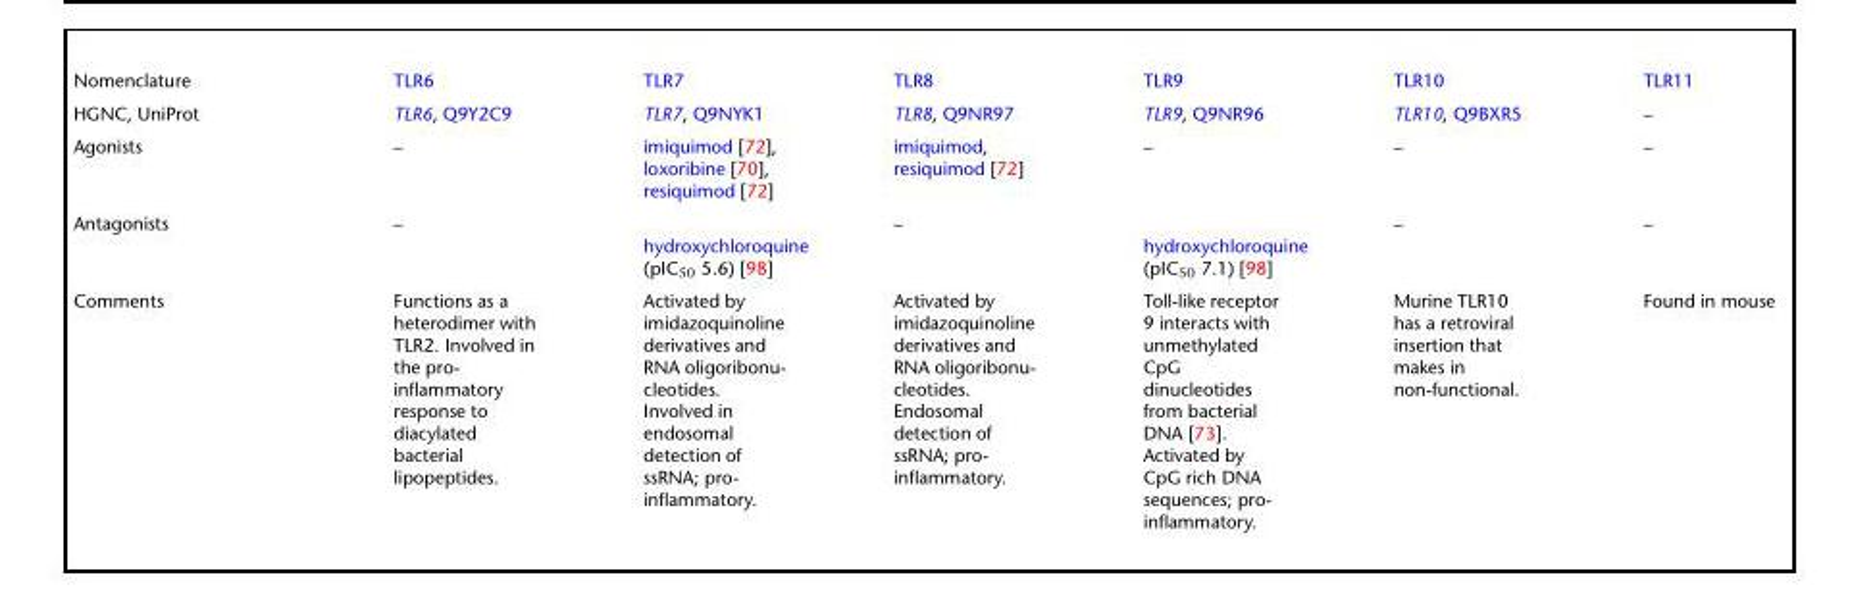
<table><tbody><tr><td>Nomenclature</td><td>TLR6</td><td>TLR7</td><td>TLR8</td><td>TLR9</td><td>TLR10</td><td>TLR11</td></tr><tr><td>HGNC, UniProt</td><td>TLR6, Q9Y2C9</td><td>TLR7, Q9NYK1</td><td>TLR8, Q9NR97</td><td>TLR9, Q9NR96</td><td>TLR10, Q9BXR5</td><td>–</td></tr><tr><td>Agonists</td><td>–</td><td>imiquimod [72], loxoribine [70], resiquimod [72]</td><td>imiquimod, resiquimod [72]</td><td>–</td><td>–</td><td>–</td></tr><tr><td>Antagonists</td><td>–</td><td>hydroxychloroquine (pIC<sub>50</sub> 5.6) [98]</td><td>–</td><td>hydroxychloroquine (pIC<sub>50</sub> 7.1) [98]</td><td>–</td><td>–</td></tr><tr><td>Comments</td><td>Functions as a heterodimer with TLR2. Involved in the pro- inflammatory response to diacylated bacterial lipopeptides.</td><td>Activated by imidazoquinoline derivatives and RNA oligoribonu- cleotides. Involved in endosomal detection of ssRNA; pro- inflammatory.</td><td>Activated by imidazoquinoline derivatives and RNA oligoribonu- cleotides. Endosomal detection of ssRNA; pro- inflammatory.</td><td>Toll-like receptor 9 interacts with unmethylated CpG dinucleotides from bacterial DNA [73]. Activated by CpG rich DNA sequences; pro- inflammatory.</td><td>Murine TLR10 has a retroviral insertion that makes in non-functional.</td><td>Found in mouse</td></tr></tbody></table>